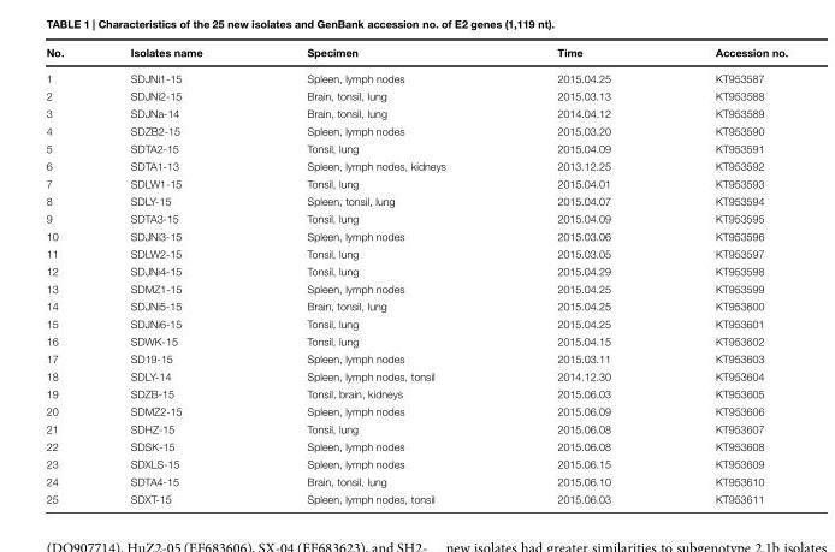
<table><thead><tr><td>No.</td><td>Isolates name</td><td>Specimen</td><td>Time</td><td>Accession no.</td></tr></thead><tbody><tr><td>1</td><td>SDJNi1-15</td><td>Spleen, lymph nodes</td><td>2015.04.25</td><td>KT953587</td></tr><tr><td>2</td><td>SDJNi2-15</td><td>Brain, tonsil, lung</td><td>2015.03.13</td><td>KT953588</td></tr><tr><td>3</td><td>SDJNa-14</td><td>Brain, tonsil, lung</td><td>2014.04.12</td><td>KT953589</td></tr><tr><td>4</td><td>SDZB2-15</td><td>Spleen, lymph nodes</td><td>2015.03.20</td><td>KT953590</td></tr><tr><td>5</td><td>SDTA2-15</td><td>Tonsil, lung</td><td>2015.04.09</td><td>KT953591</td></tr><tr><td>6</td><td>SDTA1-13</td><td>Spleen, lymph nodes, kidneys</td><td>2013.12.25</td><td>KT953592</td></tr><tr><td>7</td><td>SDLW1-15</td><td>Tonsil, lung</td><td>2015.04.01</td><td>KT953593</td></tr><tr><td>8</td><td>SDLY-15</td><td>Spleen, tonsil, lung</td><td>2015.04.07</td><td>KT953594</td></tr><tr><td>9</td><td>SDTA3-15</td><td>Tonsil, lung</td><td>2015.04.09</td><td>KT953595</td></tr><tr><td>10</td><td>SDJNi3-15</td><td>Spleen, lymph nodes</td><td>2015.03.06</td><td>KT953596</td></tr><tr><td>11</td><td>SDLW2-15</td><td>Tonsil, lung</td><td>2015.03.05</td><td>KT953597</td></tr><tr><td>12</td><td>SDJNi4-15</td><td>Tonsil, lung</td><td>2015.04.29</td><td>KT953598</td></tr><tr><td>13</td><td>SDMZ1-15</td><td>Spleen, lymph nodes</td><td>2015.04.25</td><td>KT953599</td></tr><tr><td>14</td><td>SDJNi5-15</td><td>Brain, tonsil, lung</td><td>2015.04.25</td><td>KT953600</td></tr><tr><td>15</td><td>SDJNi6-15</td><td>Tonsil, lung</td><td>2015.04.25</td><td>KT953601</td></tr><tr><td>16</td><td>SDWK-15</td><td>Tonsil, lung</td><td>2015.04.15</td><td>KT953602</td></tr><tr><td>17</td><td>SD19-15</td><td>Spleen, lymph nodes</td><td>2015.03.11</td><td>KT953603</td></tr><tr><td>18</td><td>SDLY-14</td><td>Spleen, lymph nodes, tonsil</td><td>2014.12.30</td><td>KT953604</td></tr><tr><td>19</td><td>SDZB-15</td><td>Tonsil, brain, kidneys</td><td>2015.06.03</td><td>KT953605</td></tr><tr><td>20</td><td>SDMZ2-15</td><td>Spleen, lymph nodes</td><td>2015.06.09</td><td>KT953606</td></tr><tr><td>21</td><td>SDHZ-15</td><td>Tonsil, lung</td><td>2015.06.08</td><td>KT953607</td></tr><tr><td>22</td><td>SDSK-15</td><td>Spleen, lymph nodes</td><td>2015.06.08</td><td>KT953608</td></tr><tr><td>23</td><td>SDXLS-15</td><td>Spleen, lymph nodes</td><td>2015.06.15</td><td>KT953609</td></tr><tr><td>24</td><td>SDTA4-15</td><td>Brain, tonsil, lung</td><td>2015.06.10</td><td>KT953610</td></tr><tr><td>25</td><td>SDXT-15</td><td>Spleen, lymph nodes, tonsil</td><td>2015.06.03</td><td>KT953611</td></tr></tbody></table>